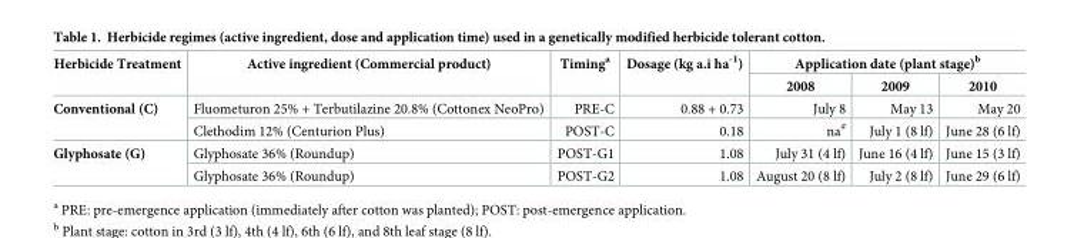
<table><thead><tr><td rowspan="2">Herbicide Treatment</td><td rowspan="2">Active ingredient (Commercial product)</td><td rowspan="2">Timing<sup>a</sup></td><td rowspan="2">Dosage (kg a.i ha<sup>-1</sup>)</td><td colspan="3">Application date (plant stage)<sup>b</sup></td></tr><tr><td>2008</td><td>2009</td><td>2010</td></tr></thead><tbody><tr><td rowspan="2">Conventional (C)</td><td>Fluometuron 25% + Terbutilazine 20.8% (Cottonex NeoPro)</td><td>PRE-C</td><td>0.88 + 0.73</td><td>July 8</td><td>May 13</td><td>May 20</td></tr><tr><td>Clethodim 12% (Centurion Plus)</td><td>POST-C</td><td>0.18</td><td>na<sup>#</sup></td><td>July 1 (8 lf)</td><td>June 28 (6 lf)</td></tr><tr><td rowspan="2">Glyphosate (G)</td><td>Glyphosate 36% (Roundup)</td><td>POST-G1</td><td>1.08</td><td>July 31 (4 lf)</td><td>June 16 (4 lf)</td><td>June 15 (3 lf)</td></tr><tr><td>Glyphosate 36% (Roundup)</td><td>POST-G2</td><td>1.08</td><td>August 20 (8 lf)</td><td>July 2 (8 lf)</td><td>June 29 (6 lf)</td></tr></tbody></table>